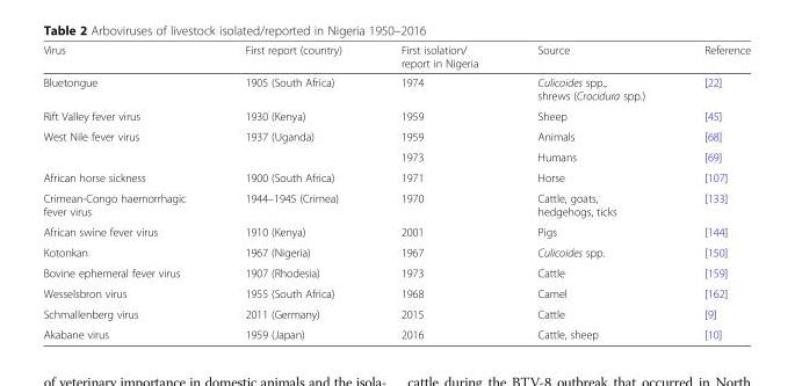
<table><thead><tr><td>Virus</td><td>First report (country)</td><td>First isolation/ report in Nigeria</td><td>Source</td><td>Reference</td></tr></thead><tbody><tr><td>Bluetongue</td><td>1905 (South Africa)</td><td>1974</td><td>Culicoides spp., shrews (Crocidura spp.)</td><td>[22]</td></tr><tr><td>Rift Valley fever virus</td><td>1930 (Kenya)</td><td>1959</td><td>Sheep</td><td>[45]</td></tr><tr><td rowspan="2">West Nile fever virus</td><td rowspan="2">1937 (Uganda)</td><td>1959</td><td>Animals</td><td>[68]</td></tr><tr><td>1973</td><td>Humans</td><td>[69]</td></tr><tr><td>African horse sickness</td><td>1900 (South Africa)</td><td>1971</td><td>Horse</td><td>[107]</td></tr><tr><td>Crimean-Congo haemorrhagic fever virus</td><td>1944–1945 (Crimea)</td><td>1970</td><td>Cattle, goats, hedgehogs, ticks</td><td>[133]</td></tr><tr><td>African swine fever virus</td><td>1910 (Kenya)</td><td>2001</td><td>Pigs</td><td>[144]</td></tr><tr><td>Kotonkan</td><td>1967 (Nigeria)</td><td>1967</td><td>Culicoides spp.</td><td>[150]</td></tr><tr><td>Bovine ephemeral fever virus</td><td>1907 (Rhodesia)</td><td>1973</td><td>Cattle</td><td>[159]</td></tr><tr><td>Wesselsbron virus</td><td>1955 (South Africa)</td><td>1968</td><td>Camel</td><td>[162]</td></tr><tr><td>Schmallenberg virus</td><td>2011 (Germany)</td><td>2015</td><td>Cattle</td><td>[9]</td></tr><tr><td>Akabane virus</td><td>1959 (Japan)</td><td>2016</td><td>Cattle, sheep</td><td>[10]</td></tr></tbody></table>